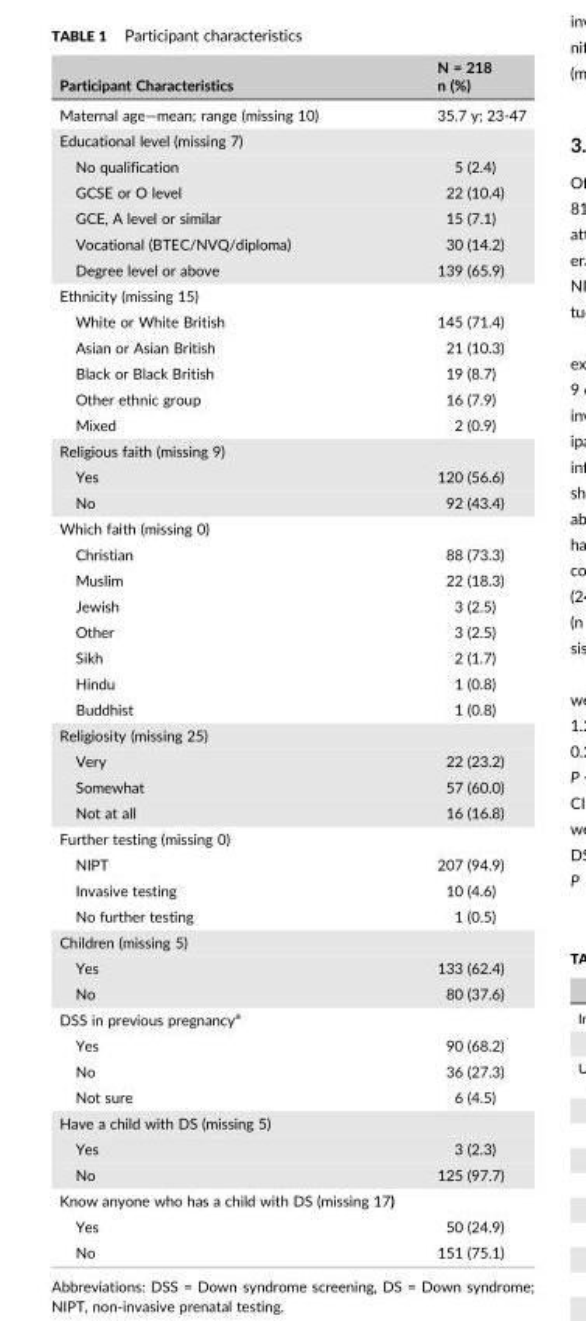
<table><thead><tr><td>Participant Characteristics</td><td>N = 218 n (%)</td></tr></thead><tbody><tr><td>Maternal age—mean; range (missing 10)</td><td>35.7 y; 23‐47</td></tr><tr><td colspan="2">Educational level (missing 7)</td></tr><tr><td>No qualification</td><td>5 (2.4)</td></tr><tr><td>GCSE or O level</td><td>22 (10.4)</td></tr><tr><td>GCE, A level or similar</td><td>15 (7.1)</td></tr><tr><td>Vocational (BTEC/NVQ/diploma)</td><td>30 (14.2)</td></tr><tr><td>Degree level or above</td><td>139 (65.9)</td></tr><tr><td colspan="2">Ethnicity (missing 15)</td></tr><tr><td>White or White British</td><td>145 (71.4)</td></tr><tr><td>Asian or Asian British</td><td>21 (10.3)</td></tr><tr><td>Black or Black British</td><td>19 (8.7)</td></tr><tr><td>Other ethnic group</td><td>16 (7.9)</td></tr><tr><td>Mixed</td><td>2 (0.9)</td></tr><tr><td colspan="2">Religious faith (missing 9)</td></tr><tr><td>Yes</td><td>120 (56.6)</td></tr><tr><td>No</td><td>92 (43.4)</td></tr><tr><td colspan="2">Which faith (missing 0)</td></tr><tr><td>Christian</td><td>88 (73.3)</td></tr><tr><td>Muslim</td><td>22 (18.3)</td></tr><tr><td>Jewish</td><td>3 (2.5)</td></tr><tr><td>Other</td><td>3 (2.5)</td></tr><tr><td>Sikh</td><td>2 (1.7)</td></tr><tr><td>Hindu</td><td>1 (0.8)</td></tr><tr><td>Buddhist</td><td>1 (0.8)</td></tr><tr><td colspan="2">Religiosity (missing 25)</td></tr><tr><td>Very</td><td>22 (23.2)</td></tr><tr><td>Somewhat</td><td>57 (60.0)</td></tr><tr><td>Not at all</td><td>16 (16.8)</td></tr><tr><td colspan="2">Further testing (missing 0)</td></tr><tr><td>NIPT</td><td>207 (94.9)</td></tr><tr><td>Invasive testing</td><td>10 (4.6)</td></tr><tr><td>No further testing</td><td>1 (0.5)</td></tr><tr><td colspan="2">Children (missing 5)</td></tr><tr><td>Yes</td><td>133 (62.4)</td></tr><tr><td>No</td><td>80 (37.6)</td></tr><tr><td colspan="2">DSS in previous pregnancy<sup>a</sup></td></tr><tr><td>Yes</td><td>90 (68.2)</td></tr><tr><td>No</td><td>36 (27.3)</td></tr><tr><td>Not sure</td><td>6 (4.5)</td></tr><tr><td colspan="2">Have a child with DS (missing 5)</td></tr><tr><td>Yes</td><td>3 (2.3)</td></tr><tr><td>No</td><td>125 (97.7)</td></tr><tr><td colspan="2">Know anyone who has a child with DS (missing 17)</td></tr><tr><td>Yes</td><td>50 (24.9)</td></tr><tr><td>No</td><td>151 (75.1)</td></tr></tbody></table>